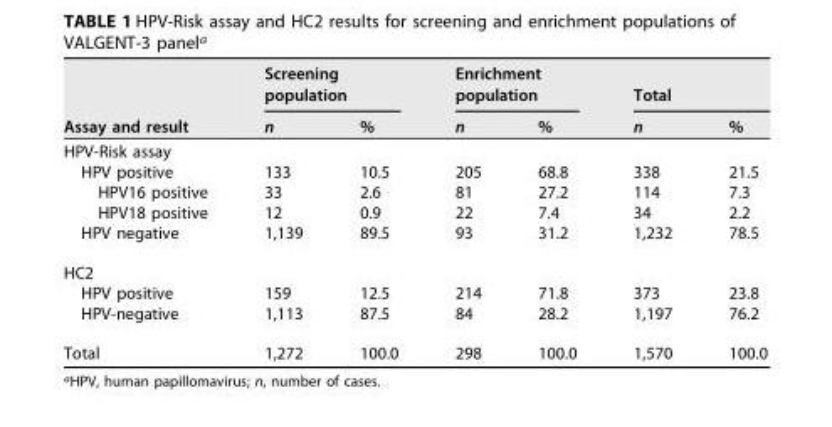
<table><thead><tr><td rowspan="2">Assay and result</td><td colspan="2">Screening population</td><td colspan="2">Enrichment population</td><td colspan="2">Total</td></tr><tr><td>n</td><td>%</td><td>n</td><td>%</td><td>n</td><td>%</td></tr></thead><tbody><tr><td colspan="7">HPV-Risk assay</td></tr><tr><td>HPV positive</td><td>133</td><td>10.5</td><td>205</td><td>68.8</td><td>338</td><td>21.5</td></tr><tr><td>HPV16 positive</td><td>33</td><td>2.6</td><td>81</td><td>27.2</td><td>114</td><td>7.3</td></tr><tr><td>HPV18 positive</td><td>12</td><td>0.9</td><td>22</td><td>7.4</td><td>34</td><td>2.2</td></tr><tr><td>HPV negative</td><td>1,139</td><td>89.5</td><td>93</td><td>31.2</td><td>1,232</td><td>78.5</td></tr><tr><td colspan="7">HC2</td></tr><tr><td>HPV positive</td><td>159</td><td>12.5</td><td>214</td><td>71.8</td><td>373</td><td>23.8</td></tr><tr><td>HPV-negative</td><td>1,113</td><td>87.5</td><td>84</td><td>28.2</td><td>1,197</td><td>76.2</td></tr><tr><td>Total</td><td>1,272</td><td>100.0</td><td>298</td><td>100.0</td><td>1,570</td><td>100.0</td></tr></tbody></table>